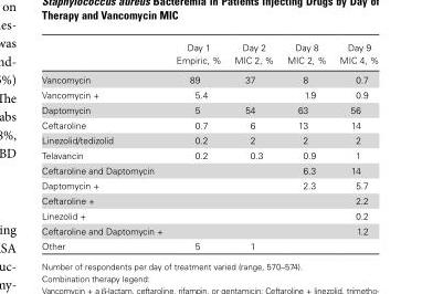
<table><thead><tr><td></td><td>Day 1 Empiric, %</td><td>Day 2 MIC 2, %</td><td>Day 8 MIC 2, %</td><td>Day 9 MIC 4, %</td></tr></thead><tbody><tr><td>Vancomycin</td><td>89</td><td>37</td><td>8</td><td>0.7</td></tr><tr><td>Vancomycin +</td><td>5.4</td><td></td><td>1.9</td><td>0.9</td></tr><tr><td>Daptomycin</td><td>5</td><td>54</td><td>63</td><td>56</td></tr><tr><td>Ceftaroline</td><td>0.7</td><td>6</td><td>13</td><td>14</td></tr><tr><td>Linezolid/tedizolid</td><td>0.2</td><td>2</td><td>2</td><td>2</td></tr><tr><td>Telavancin</td><td>0.2</td><td>0.3</td><td>0.9</td><td>1</td></tr><tr><td>Ceftaroline and Daptomycin</td><td></td><td></td><td>6.3</td><td>14</td></tr><tr><td>Daptomycin +</td><td></td><td></td><td>2.3</td><td>5.7</td></tr><tr><td>Ceftaroline +</td><td></td><td></td><td></td><td>2.2</td></tr><tr><td>Linezolid +</td><td></td><td></td><td></td><td>0.2</td></tr><tr><td>Ceftaroline and Daptomycin +</td><td></td><td></td><td></td><td>1.2</td></tr><tr><td>Other</td><td>5</td><td>1</td><td></td><td></td></tr></tbody></table>